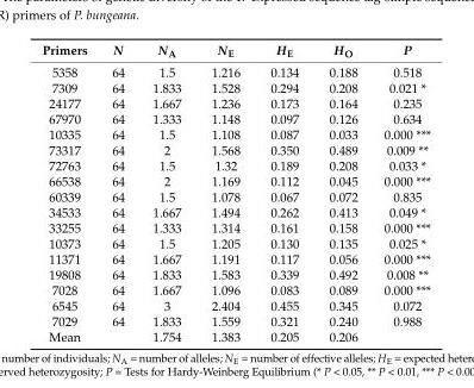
<table><thead><tr><td>Primers</td><td>N</td><td>N<sub>A</sub></td><td>N<sub>E</sub></td><td>H<sub>E</sub></td><td>H<sub>O</sub></td><td>P</td></tr></thead><tbody><tr><td>5358</td><td>64</td><td>1.5</td><td>1.216</td><td>0.134</td><td>0.188</td><td>0.518</td></tr><tr><td>7309</td><td>64</td><td>1.833</td><td>1.528</td><td>0.294</td><td>0.208</td><td>0.021 *</td></tr><tr><td>24177</td><td>64</td><td>1.667</td><td>1.236</td><td>0.173</td><td>0.164</td><td>0.235</td></tr><tr><td>67970</td><td>64</td><td>1.333</td><td>1.148</td><td>0.097</td><td>0.126</td><td>0.634</td></tr><tr><td>10335</td><td>64</td><td>1.5</td><td>1.108</td><td>0.087</td><td>0.033</td><td>0.000 ***</td></tr><tr><td>73317</td><td>64</td><td>2</td><td>1.568</td><td>0.350</td><td>0.489</td><td>0.009 **</td></tr><tr><td>72763</td><td>64</td><td>1.5</td><td>1.32</td><td>0.189</td><td>0.208</td><td>0.033 *</td></tr><tr><td>66538</td><td>64</td><td>2</td><td>1.169</td><td>0.112</td><td>0.045</td><td>0.000 ***</td></tr><tr><td>60339</td><td>64</td><td>1.5</td><td>1.078</td><td>0.067</td><td>0.072</td><td>0.835</td></tr><tr><td>34533</td><td>64</td><td>1.667</td><td>1.494</td><td>0.262</td><td>0.413</td><td>0.049 *</td></tr><tr><td>33255</td><td>64</td><td>1.333</td><td>1.314</td><td>0.161</td><td>0.158</td><td>0.000 ***</td></tr><tr><td>10373</td><td>64</td><td>1.5</td><td>1.205</td><td>0.130</td><td>0.135</td><td>0.025 *</td></tr><tr><td>11371</td><td>64</td><td>1.667</td><td>1.191</td><td>0.117</td><td>0.056</td><td>0.000 ***</td></tr><tr><td>19808</td><td>64</td><td>1.833</td><td>1.583</td><td>0.339</td><td>0.492</td><td>0.008 **</td></tr><tr><td>7028</td><td>64</td><td>1.667</td><td>1.096</td><td>0.083</td><td>0.089</td><td>0.000 ***</td></tr><tr><td>6545</td><td>64</td><td>3</td><td>2.404</td><td>0.455</td><td>0.345</td><td>0.072</td></tr><tr><td>7029</td><td>64</td><td>1.833</td><td>1.559</td><td>0.321</td><td>0.240</td><td>0.988</td></tr><tr><td>Mean</td><td></td><td>1.754</td><td>1.383</td><td>0.205</td><td>0.206</td><td></td></tr></tbody></table>